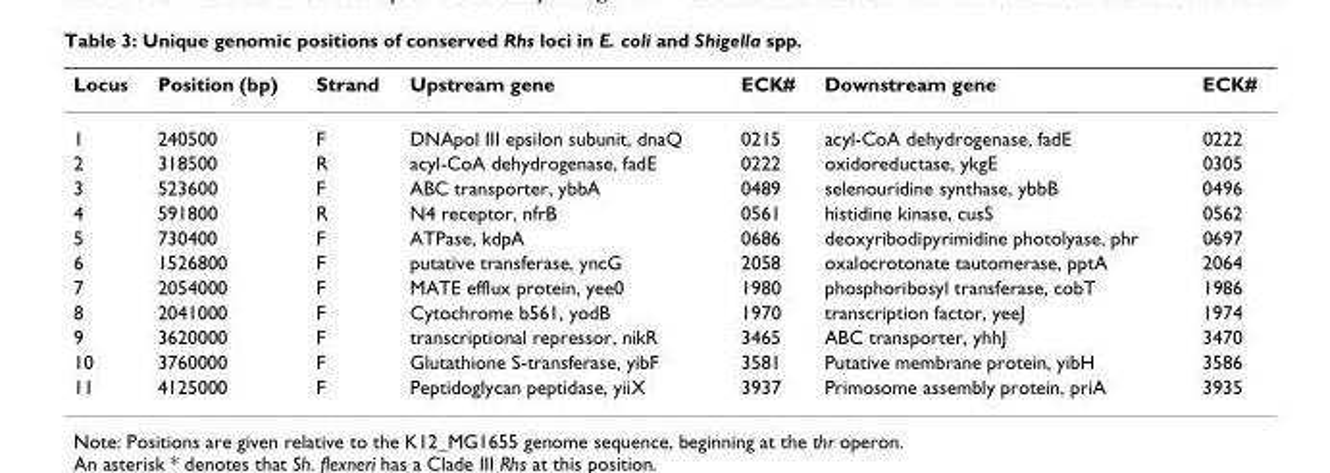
<table><thead><tr><td>Locus</td><td>Position (bp)</td><td>Strand</td><td>Upstream gene</td><td>ECK#</td><td>Downstream gene</td><td>ECK#</td></tr></thead><tbody><tr><td>1</td><td>240500</td><td>F</td><td>DNApol III epsilon subunit, dnaQ</td><td>0215</td><td>acyl-CoA dehydrogenase, fadE</td><td>0222</td></tr><tr><td>2</td><td>318500</td><td>R</td><td>acyl-CoA dehydrogenase, fadE</td><td>0222</td><td>oxidoreductase, ykgE</td><td>0305</td></tr><tr><td>3</td><td>523600</td><td>F</td><td>ABC transporter, ybbA</td><td>0489</td><td>selenouridine synthase, ybbB</td><td>0496</td></tr><tr><td>4</td><td>591800</td><td>R</td><td>N4 receptor, nfrB</td><td>0561</td><td>histidine kinase, cusS</td><td>0562</td></tr><tr><td>5</td><td>730400</td><td>F</td><td>ATPase, kdpA</td><td>0686</td><td>deoxyribodipyrimidine photolyase, phr</td><td>0697</td></tr><tr><td>6</td><td>1526800</td><td>F</td><td>putative transferase, yncG</td><td>2058</td><td>oxalocrotonate tautomerase, pptA</td><td>2064</td></tr><tr><td>7</td><td>2054000</td><td>F</td><td>MATE efflux protein, yee0</td><td>1980</td><td>phosphoribosyl transferase, cobT</td><td>1986</td></tr><tr><td>8</td><td>2041000</td><td>F</td><td>Cytochrome b561, yodB</td><td>1970</td><td>transcription factor, yeeJ</td><td>1974</td></tr><tr><td>9</td><td>3620000</td><td>F</td><td>transcriptional repressor, nikR</td><td>3465</td><td>ABC transporter, yhhJ</td><td>3470</td></tr><tr><td>10</td><td>3760000</td><td>F</td><td>Glutathione S-transferase, yibF</td><td>3581</td><td>Putative membrane protein, yibH</td><td>3586</td></tr><tr><td>11</td><td>4125000</td><td>F</td><td>Peptidoglycan peptidase, yiiX</td><td>3937</td><td>Primosome assembly protein, priA</td><td>3935</td></tr></tbody></table>